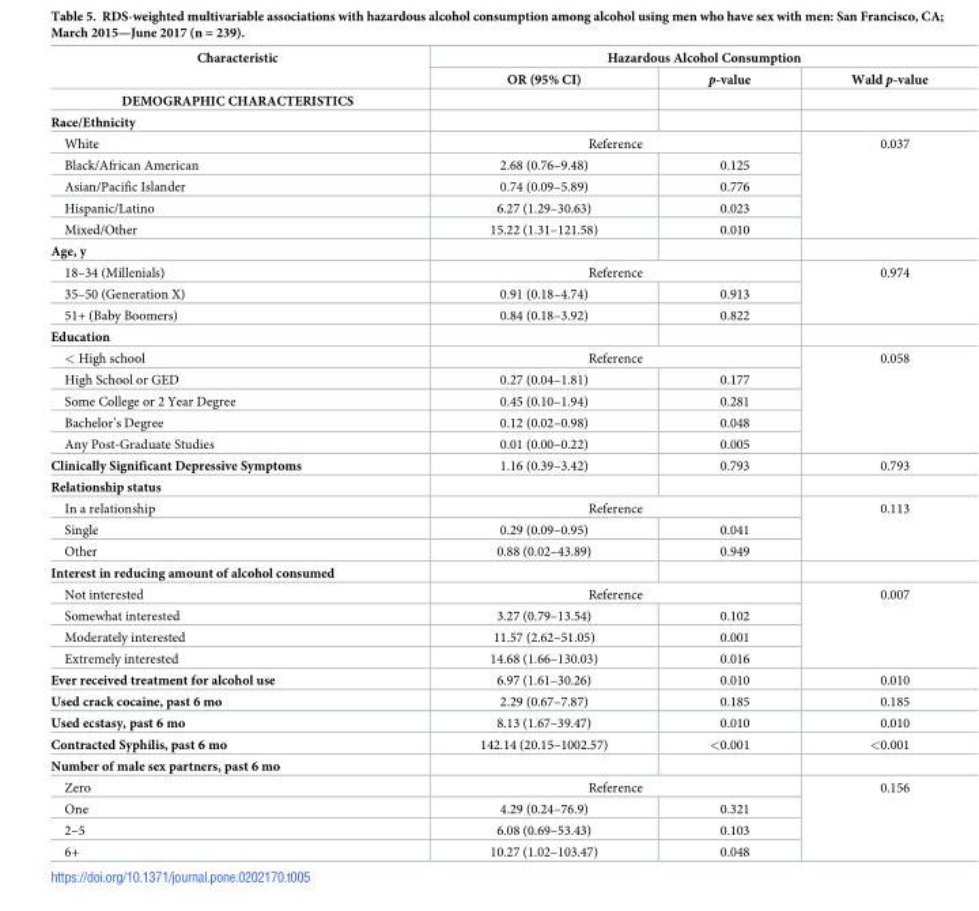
<table><thead><tr><td rowspan="3">Characteristic DEMOGRAPHIC CHARACTERISTICS</td><td colspan="3">Hazardous Alcohol Consumption</td></tr><tr><td rowspan="2">OR (95% CI)</td><td rowspan="2">p-value</td><td rowspan="2">Wald p-value</td></tr><tr></tr></thead><tbody><tr><td colspan="4">Race/Ethnicity</td></tr><tr><td>White</td><td colspan="2">Reference</td><td rowspan="5">0.037</td></tr><tr><td>Black/African American</td><td>2.68 (0.76–9.48)</td><td>0.125</td></tr><tr><td>Asian/Pacific Islander</td><td>0.74 (0.09–5.89)</td><td>0.776</td></tr><tr><td>Hispanic/Latino</td><td>6.27 (1.29–30.63)</td><td>0.023</td></tr><tr><td>Mixed/Other</td><td>15.22 (1.31–121.58)</td><td>0.010</td></tr><tr><td colspan="4">Age, y</td></tr><tr><td>18–34 (Millenials)</td><td colspan="2">Reference</td><td rowspan="3">0.974</td></tr><tr><td>35–50 (Generation X)</td><td>0.91 (0.18–4.74)</td><td>0.913</td></tr><tr><td>51+ (Baby Boomers)</td><td>0.84 (0.18–3.92)</td><td>0.822</td></tr><tr><td colspan="4">Education</td></tr><tr><td>&lt; High school</td><td colspan="2">Reference</td><td rowspan="5">0.058</td></tr><tr><td>High School or GED</td><td>0.27 (0.04–1.81)</td><td>0.177</td></tr><tr><td>Some College or 2 Year Degree</td><td>0.45 (0.10–1.94)</td><td>0.281</td></tr><tr><td>Bachelor’s Degree</td><td>0.12 (0.02–0.98)</td><td>0.048</td></tr><tr><td>Any Post-Graduate Studies</td><td>0.01 (0.00–0.22)</td><td>0.005</td></tr><tr><td>Clinically Significant Depressive Symptoms</td><td>1.16 (0.39–3.42)</td><td>0.793</td><td>0.793</td></tr><tr><td colspan="4">Relationship status</td></tr><tr><td>In a relationship</td><td colspan="2">Reference</td><td rowspan="3">0.113</td></tr><tr><td>Single</td><td>0.29 (0.09–0.95)</td><td>0.041</td></tr><tr><td>Other</td><td>0.88 (0.02–43.89)</td><td>0.949</td></tr><tr><td colspan="4">Interest in reducing amount of alcohol consumed</td></tr><tr><td>Not interested</td><td colspan="2">Reference</td><td rowspan="4">0.007</td></tr><tr><td>Somewhat interested</td><td>3.27 (0.79–13.54)</td><td>0.102</td></tr><tr><td>Moderately interested</td><td>11.57 (2.62–51.05)</td><td>0.001</td></tr><tr><td>Extremely interested</td><td>14.68 (1.66–130.03)</td><td>0.016</td></tr><tr><td>Ever received treatment for alcohol use</td><td>6.97 (1.61–30.26)</td><td>0.010</td><td>0.010</td></tr><tr><td>Used crack cocaine, past 6 mo</td><td>2.29 (0.67–7.87)</td><td>0.185</td><td>0.185</td></tr><tr><td>Used ecstasy, past 6 mo</td><td>8.13 (1.67–39.47)</td><td>0.010</td><td>0.010</td></tr><tr><td>Contracted Syphilis, past 6 mo</td><td>142.14 (20.15–1002.57)</td><td>&lt;0.001</td><td>&lt;0.001</td></tr><tr><td colspan="4">Number of male sex partners, past 6 mo</td></tr><tr><td>Zero</td><td colspan="2">Reference</td><td rowspan="4">0.156</td></tr><tr><td>One</td><td>4.29 (0.24–76.9)</td><td>0.321</td></tr><tr><td>2–5</td><td>6.08 (0.69–53.43)</td><td>0.103</td></tr><tr><td>6+</td><td>10.27 (1.02–103.47)</td><td>0.048</td></tr></tbody></table>